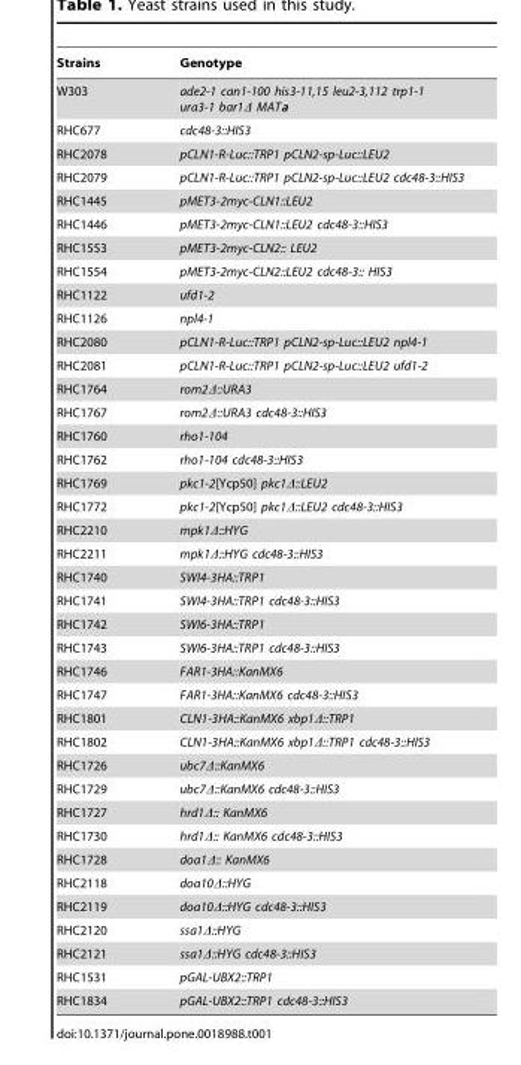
<table><thead><tr><td>Strains</td><td>Genotype</td></tr></thead><tbody><tr><td>W303</td><td>ade2-1 can1-100 his3-11,15 leu2-3,112 trp1-1 ura3-1 bar1Δ MATa</td></tr><tr><td>RHC677</td><td>cdc48-3::HIS3</td></tr><tr><td>RHC2078</td><td>pCLN1-R-Luc::TRP1 pCLN2-sp-Luc::LEU2</td></tr><tr><td>RHC2079</td><td>pCLN1-R-Luc::TRP1 pCLN2-sp-Luc::LEU2 cdc48-3::HIS3</td></tr><tr><td>RHC1445</td><td>pMET3-2myc-CLN1::LEU2</td></tr><tr><td>RHC1446</td><td>pMET3-2myc-CLN1::LEU2 cdc48-3::HIS3</td></tr><tr><td>RHC1553</td><td>pMET3-2myc-CLN2:: LEU2</td></tr><tr><td>RHC1554</td><td>pMET3-2myc-CLN2::LEU2 cdc48-3:: HIS3</td></tr><tr><td>RHC1122</td><td>ufd1-2</td></tr><tr><td>RHC1126</td><td>npl4-1</td></tr><tr><td>RHC2080</td><td>pCLN1-R-Luc::TRP1 pCLN2-sp-Luc::LEU2 npl4-1</td></tr><tr><td>RHC2081</td><td>pCLN1-R-Luc::TRP1 pCLN2-sp-Luc::LEU2 ufd1-2</td></tr><tr><td>RHC1764</td><td>rom2Δ::URA3</td></tr><tr><td>RHC1767</td><td>rom2Δ::URA3 cdc48-3::HIS3</td></tr><tr><td>RHC1760</td><td>rho1-104</td></tr><tr><td>RHC1762</td><td>rho1-104 cdc48-3::HIS3</td></tr><tr><td>RHC1769</td><td>pkc1-2[Ycp50] pkc1Δ::LEU2</td></tr><tr><td>RHC1772</td><td>pkc1-2[Ycp50] pkc1Δ::LEU2 cdc48-3::HIS3</td></tr><tr><td>RHC2210</td><td>mpk1Δ::HYG</td></tr><tr><td>RHC2211</td><td>mpk1Δ::HYG cdc48-3::HIS3</td></tr><tr><td>RHC1740</td><td>SWI4-3HA::TRP1</td></tr><tr><td>RHC1741</td><td>SWI4-3HA::TRP1 cdc48-3::HIS3</td></tr><tr><td>RHC1742</td><td>SWI6-3HA::TRP1</td></tr><tr><td>RHC1743</td><td>SWI6-3HA::TRP1 cdc48-3::HIS3</td></tr><tr><td>RHC1746</td><td>FAR1-3HA::KanMX6</td></tr><tr><td>RHC1747</td><td>FAR1-3HA::KanMX6 cdc48-3::HIS3</td></tr><tr><td>RHC1801</td><td>CLN1-3HA::KanMX6 xbp1Δ::TRP1</td></tr><tr><td>RHC1802</td><td>CLN1-3HA::KanMX6 xbp1Δ::TRP1 cdc48-3::HIS3</td></tr><tr><td>RHC1726</td><td>ubc7Δ::KanMX6</td></tr><tr><td>RHC1729</td><td>ubc7Δ::KanMX6 cdc48-3::HIS3</td></tr><tr><td>RHC1727</td><td>hrd1Δ:: KanMX6</td></tr><tr><td>RHC1730</td><td>hrd1Δ:: KanMX6 cdc48-3::HIS3</td></tr><tr><td>RHC1728</td><td>doa1Δ:: KanMX6</td></tr><tr><td>RHC2118</td><td>doa10Δ::HYG</td></tr><tr><td>RHC2119</td><td>doa10Δ::HYG cdc48-3::HIS3</td></tr><tr><td>RHC2120</td><td>ssa1Δ::HYG</td></tr><tr><td>RHC2121</td><td>ssa1Δ::HYG cdc48-3::HIS3</td></tr><tr><td>RHC1531</td><td>pGAL-UBX2::TRP1</td></tr><tr><td>RHC1834</td><td>pGAL-UBX2::TRP1 cdc48-3::HIS3</td></tr></tbody></table>